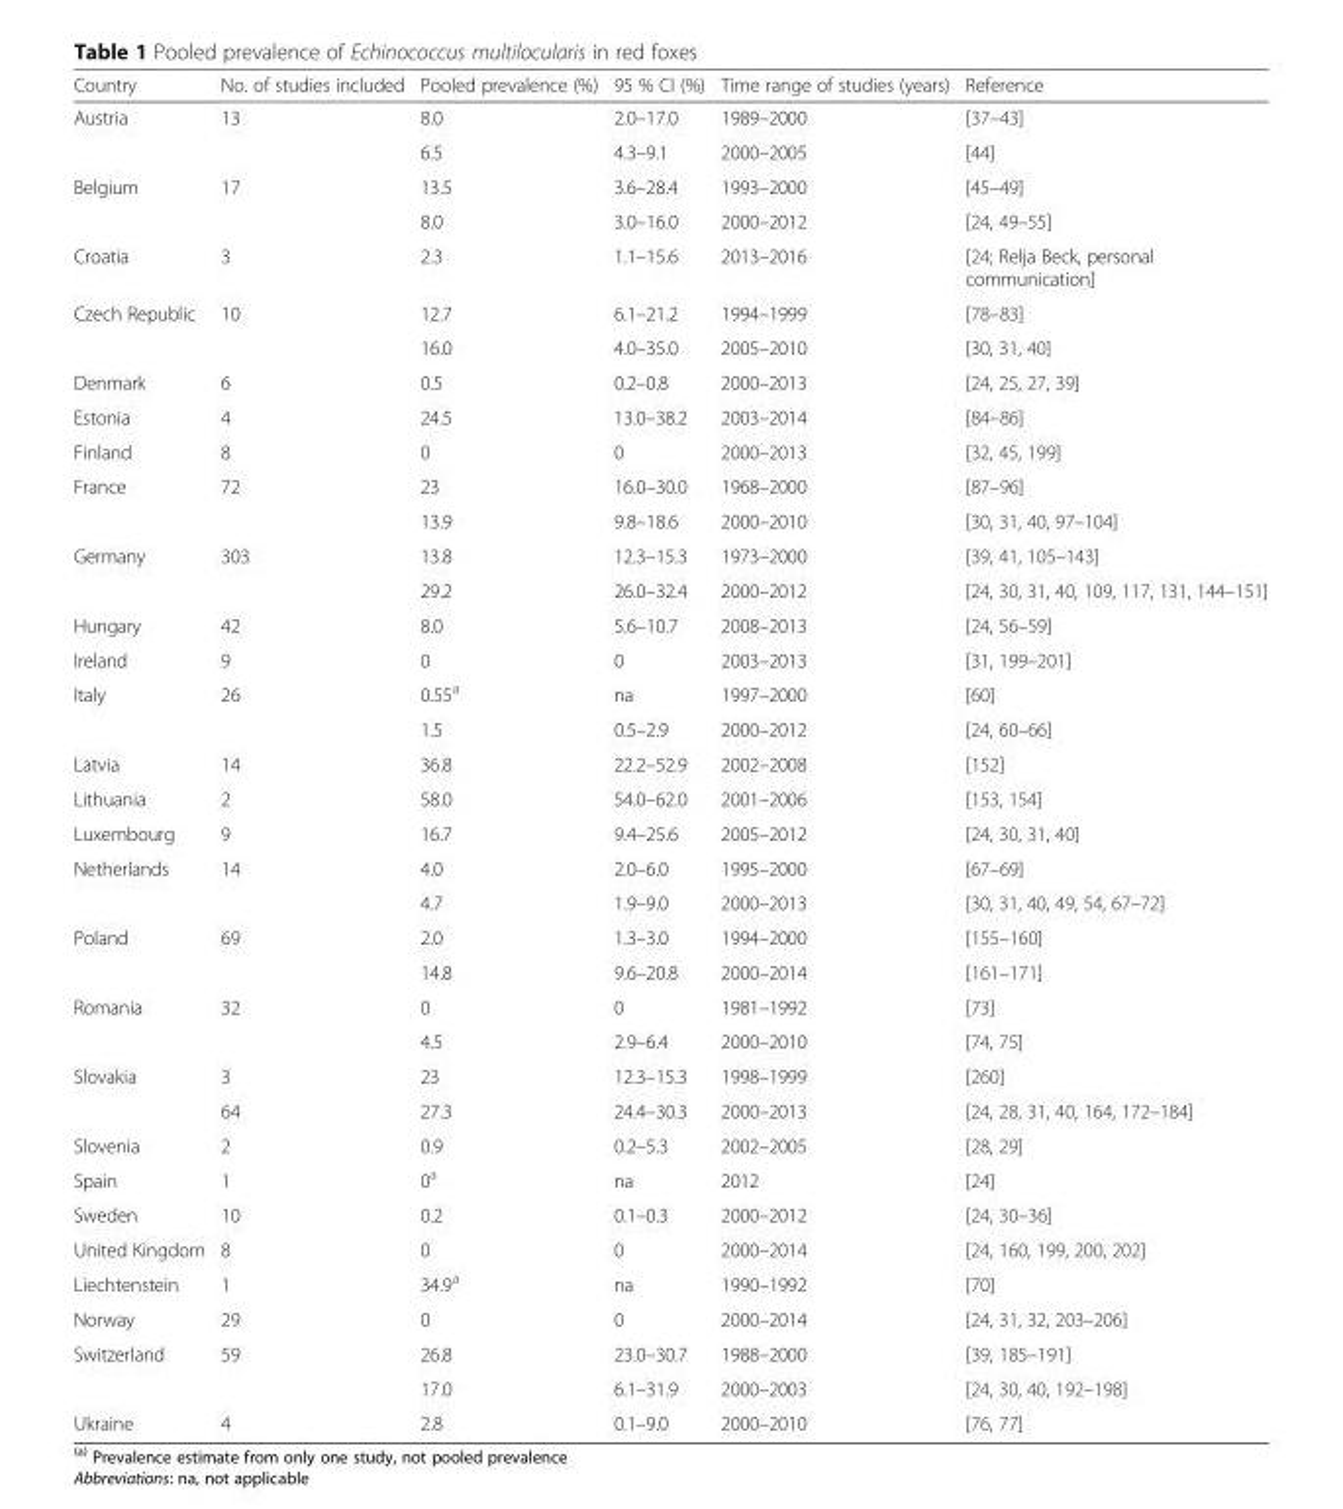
<table><thead><tr><td>Country</td><td>No. of studies included</td><td>Pooled prevalence (%)</td><td>95 % CI (%)</td><td>Time range of studies (years)</td><td>Reference</td></tr></thead><tbody><tr><td rowspan="2">Austria</td><td rowspan="2">13</td><td>8.0</td><td>2.0–17.0</td><td>1989–2000</td><td>[37–43]</td></tr><tr><td>6.5</td><td>4.3–9.1</td><td>2000–2005</td><td>[44]</td></tr><tr><td rowspan="2">Belgium</td><td rowspan="2">17</td><td>13.5</td><td>3.6–28.4</td><td>1993–2000</td><td>[45–49]</td></tr><tr><td>8.0</td><td>3.0–16.0</td><td>2000–2012</td><td>[24, 49–55]</td></tr><tr><td>Croatia</td><td>3</td><td>2.3</td><td>1.1–15.6</td><td>2013–2016</td><td>[24; Relja Beck, personal communication]</td></tr><tr><td rowspan="2">Czech Republic</td><td rowspan="2">10</td><td>12.7</td><td>6.1–21.2</td><td>1994–1999</td><td>[78–83]</td></tr><tr><td>16.0</td><td>4.0–35.0</td><td>2005–2010</td><td>[30, 31, 40]</td></tr><tr><td>Denmark</td><td>6</td><td>0.5</td><td>0.2–0.8</td><td>2000–2013</td><td>[24, 25, 27, 39]</td></tr><tr><td>Estonia</td><td>4</td><td>24.5</td><td>13.0–38.2</td><td>2003–2014</td><td>[84–86]</td></tr><tr><td>Finland</td><td>8</td><td>0</td><td>0</td><td>2000–2013</td><td>[32, 45, 199]</td></tr><tr><td rowspan="2">France</td><td rowspan="2">72</td><td>23</td><td>16.0–30.0</td><td>1968–2000</td><td>[87–96]</td></tr><tr><td>13.9</td><td>9.8–18.6</td><td>2000–2010</td><td>[30, 31, 40, 97–104]</td></tr><tr><td rowspan="2">Germany</td><td rowspan="2">303</td><td>13.8</td><td>12.3–15.3</td><td>1973–2000</td><td>[39, 41, 105–143]</td></tr><tr><td>29.2</td><td>26.0–32.4</td><td>2000–2012</td><td>[24, 30, 31, 40, 109, 117, 131, 144–151]</td></tr><tr><td>Hungary</td><td>42</td><td>8.0</td><td>5.6–10.7</td><td>2008–2013</td><td>[24, 56–59]</td></tr><tr><td>Ireland</td><td>9</td><td>0</td><td>0</td><td>2003–2013</td><td>[31, 199–201]</td></tr><tr><td rowspan="2">Italy</td><td rowspan="2">26</td><td>0.55<sup>a</sup></td><td>na</td><td>1997–2000</td><td>[60]</td></tr><tr><td>1.5</td><td>0.5–2.9</td><td>2000–2012</td><td>[24, 60–66]</td></tr><tr><td>Latvia</td><td>14</td><td>36.8</td><td>22.2–52.9</td><td>2002–2008</td><td>[152]</td></tr><tr><td>Lithuania</td><td>2</td><td>58.0</td><td>54.0–62.0</td><td>2001–2006</td><td>[153, 154]</td></tr><tr><td>Luxembourg</td><td>9</td><td>16.7</td><td>9.4–25.6</td><td>2005–2012</td><td>[24, 30, 31, 40]</td></tr><tr><td rowspan="2">Netherlands</td><td rowspan="2">14</td><td>4.0</td><td>2.0–6.0</td><td>1995–2000</td><td>[67–69]</td></tr><tr><td>4.7</td><td>1.9–9.0</td><td>2000–2013</td><td>[30, 31, 40, 49, 54, 67–72]</td></tr><tr><td rowspan="2">Poland</td><td rowspan="2">69</td><td>2.0</td><td>1.3–3.0</td><td>1994–2000</td><td>[155–160]</td></tr><tr><td>14.8</td><td>9.6–20.8</td><td>2000–2014</td><td>[161–171]</td></tr><tr><td rowspan="2">Romania</td><td rowspan="2">32</td><td>0</td><td>0</td><td>1981–1992</td><td>[73]</td></tr><tr><td>4.5</td><td>2.9–6.4</td><td>2000–2010</td><td>[74, 75]</td></tr><tr><td rowspan="2">Slovakia</td><td>3</td><td>23</td><td>12.3–15.3</td><td>1998–1999</td><td>[260]</td></tr><tr><td>64</td><td>27.3</td><td>24.4–30.3</td><td>2000–2013</td><td>[24, 28, 31, 40, 164, 172–184]</td></tr><tr><td>Slovenia</td><td>2</td><td>0.9</td><td>0.2–5.3</td><td>2002–2005</td><td>[28, 29]</td></tr><tr><td>Spain</td><td>1</td><td>0<sup>a</sup></td><td>na</td><td>2012</td><td>[24]</td></tr><tr><td>Sweden</td><td>10</td><td>0.2</td><td>0.1–0.3</td><td>2000–2012</td><td>[24, 30–36]</td></tr><tr><td>United Kingdom</td><td>8</td><td>0</td><td>0</td><td>2000–2014</td><td>[24, 160, 199, 200, 202]</td></tr><tr><td>Liechtenstein</td><td>1</td><td>34.9<sup>a</sup></td><td>na</td><td>1990–1992</td><td>[70]</td></tr><tr><td>Norway</td><td>29</td><td>0</td><td>0</td><td>2000–2014</td><td>[24, 31, 32, 203–206]</td></tr><tr><td rowspan="2">Switzerland</td><td rowspan="2">59</td><td>26.8</td><td>23.0–30.7</td><td>1988–2000</td><td>[39, 185–191]</td></tr><tr><td>17.0</td><td>6.1–31.9</td><td>2000–2003</td><td>[24, 30, 40, 192–198]</td></tr><tr><td>Ukraine</td><td>4</td><td>2.8</td><td>0.1–9.0</td><td>2000–2010</td><td>[76, 77]</td></tr></tbody></table>